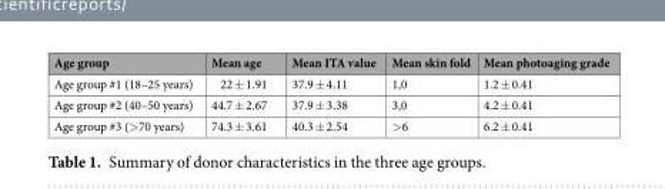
<table><thead><tr><td>Age group</td><td>Mean age</td><td>Mean ITA value</td><td>Mean skin fold</td><td>Mean photoaging grade</td></tr></thead><tbody><tr><td>Age group #1 (18–25 years)</td><td>22 ± 1.91</td><td>37.9 ± 4.11</td><td>1,0</td><td>1.2 ± 0.41</td></tr><tr><td>Age group #2 (40–50 years)</td><td>44.7 ± 2.67</td><td>37.9 ± 3.38</td><td>3,0</td><td>4.2 ± 0.41</td></tr><tr><td>Age group #3 (&gt;70 years)</td><td>74.3 ± 3.61</td><td>40.3 ± 2.54</td><td>&gt;6</td><td>6.2 ± 0.41</td></tr></tbody></table>